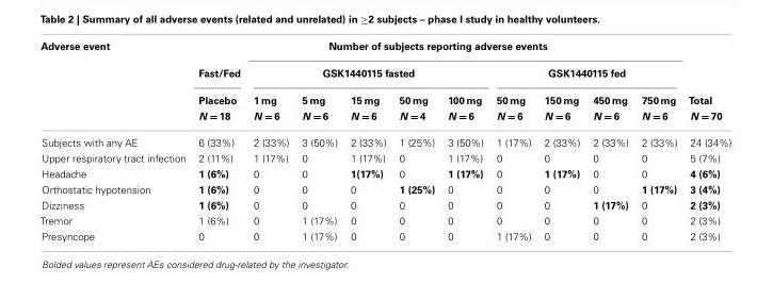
<table><thead><tr><td rowspan="4">Adverse event</td><td colspan="10">Number of subjects reporting adverse events</td><td rowspan="4">Total N = 70</td></tr><tr><td rowspan="3">Fast/Fed Placebo N = 18</td><td colspan="5">GSK1440115 fasted</td><td colspan="4">GSK1440115 fed</td></tr><tr><td rowspan="2">1 mg N = 6</td><td rowspan="2">5 mg N = 6</td><td rowspan="2">15 mg N = 6</td><td rowspan="2">50 mg N = 4</td><td rowspan="2">100 mg N = 6</td><td rowspan="2">50 mg N = 6</td><td rowspan="2">150 mg N = 6</td><td rowspan="2">450 mg N = 6</td><td rowspan="2">750 mg N = 6</td></tr><tr></tr></thead><tbody><tr><td>Subjects with any AE</td><td>6 (33%)</td><td>2 (33%)</td><td>3 (50%)</td><td>2 (33%)</td><td>1 (25%)</td><td>3 (50%)</td><td>1 (17%)</td><td>2 (33%)</td><td>2 (33%)</td><td>2 (33%)</td><td>24 (34%)</td></tr><tr><td>Upper respiratory tract infection</td><td>2 (11%)</td><td>1 (17%)</td><td>0</td><td>1 (17%)</td><td>0</td><td>1 (17%)</td><td>0</td><td>0</td><td>0</td><td>0</td><td>5 (7%)</td></tr><tr><td>Headache</td><td>1 (6%)</td><td>0</td><td>0</td><td>1(17%)</td><td>0</td><td>1 (17%)</td><td>0</td><td>1 (17%)</td><td>0</td><td>0</td><td>4 (6%)</td></tr><tr><td>Orthostatic hypotension</td><td>1 (6%)</td><td>0</td><td>0</td><td>0</td><td>1 (25%)</td><td>0</td><td>0</td><td>0</td><td>0</td><td>1 (17%)</td><td>3 (4%)</td></tr><tr><td>Dizziness</td><td>1 (6%)</td><td>0</td><td>0</td><td>0</td><td>0</td><td>0</td><td>0</td><td>0</td><td>1 (17%)</td><td>0</td><td>2 (3%)</td></tr><tr><td>Tremor</td><td>1 (6%)</td><td>0</td><td>1 (17%)</td><td>0</td><td>0</td><td>0</td><td>0</td><td>0</td><td>0</td><td>0</td><td>2 (3%)</td></tr><tr><td>Presyncope</td><td>0</td><td>0</td><td>1 (17%)</td><td>0</td><td>0</td><td>0</td><td>1 (17%)</td><td>0</td><td>0</td><td>0</td><td>2 (3%)</td></tr></tbody></table>